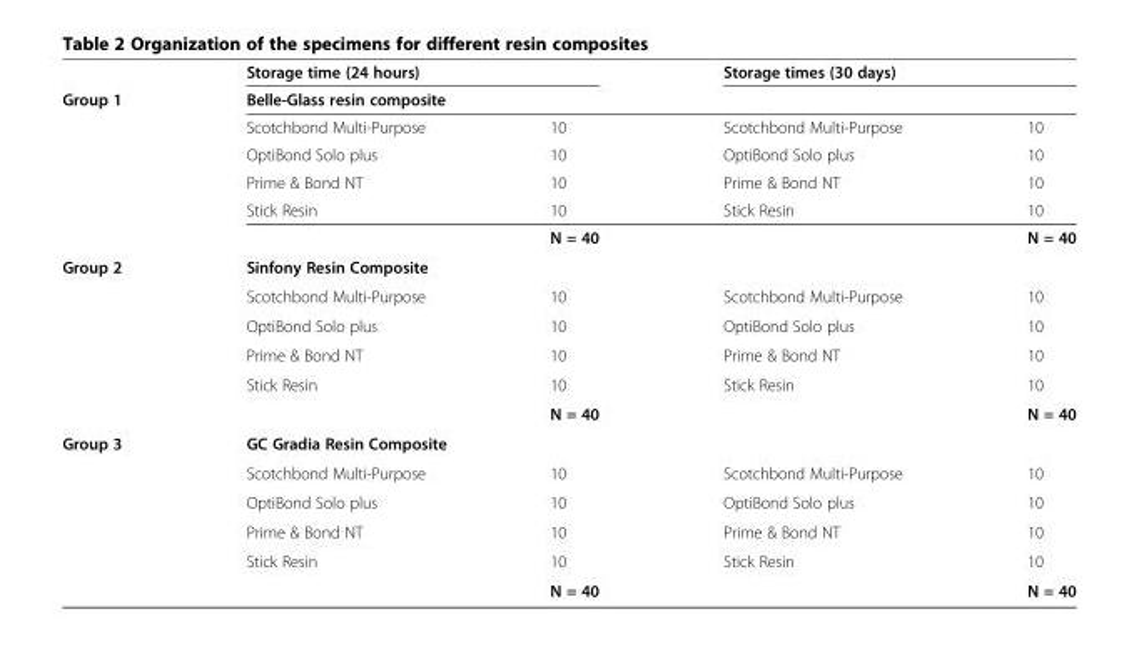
<table><thead><tr><td rowspan="6">Group 1</td><td colspan="2">Storage time (24 hours)</td><td colspan="2">Storage times (30 days)</td></tr><tr><td colspan="4">Belle-Glass resin composite</td></tr><tr><td rowspan="4">Scotchbond Multi-Purpose OptiBond Solo plus Prime &amp; Bond NT Stick Resin</td><td rowspan="4">10 10 10 10</td><td rowspan="4">Scotchbond Multi-Purpose OptiBond Solo plus Prime &amp; Bond NT Stick Resin</td><td rowspan="4">10 10 10 10</td></tr><tr></tr><tr></tr><tr></tr></thead><tbody><tr><td></td><td></td><td>N = 40</td><td></td><td>N = 40</td></tr><tr><td rowspan="6">Group 2</td><td colspan="4">Sinfony Resin Composite</td></tr><tr><td>Scotchbond Multi-Purpose</td><td>10</td><td>Scotchbond Multi-Purpose</td><td>10</td></tr><tr><td>OptiBond Solo plus</td><td>10</td><td>OptiBond Solo plus</td><td>10</td></tr><tr><td>Prime &amp; Bond NT</td><td>10</td><td>Prime &amp; Bond NT</td><td>10</td></tr><tr><td>Stick Resin</td><td>10</td><td>Stick Resin</td><td>10</td></tr><tr><td></td><td>N = 40</td><td></td><td>N = 40</td></tr><tr><td rowspan="6">Group 3</td><td colspan="4">GC Gradia Resin Composite</td></tr><tr><td>Scotchbond Multi-Purpose</td><td>10</td><td>Scotchbond Multi-Purpose</td><td>10</td></tr><tr><td>OptiBond Solo plus</td><td>10</td><td>OptiBond Solo plus</td><td>10</td></tr><tr><td>Prime &amp; Bond NT</td><td>10</td><td>Prime &amp; Bond NT</td><td>10</td></tr><tr><td>Stick Resin</td><td>10</td><td>Stick Resin</td><td>10</td></tr><tr><td></td><td>N = 40</td><td></td><td>N = 40</td></tr></tbody></table>